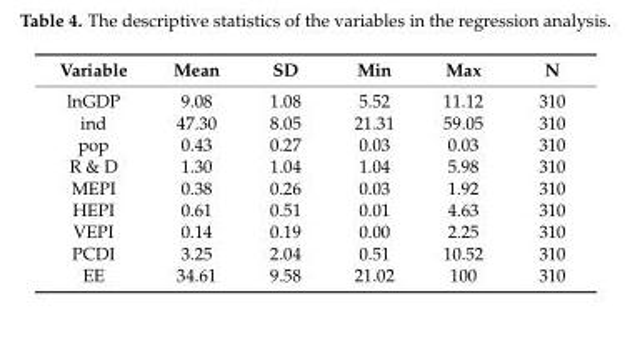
<table><thead><tr><td>Variable</td><td>Mean</td><td>SD</td><td>Min</td><td>Max</td><td>N</td></tr></thead><tbody><tr><td>lnGDP</td><td>9.08</td><td>1.08</td><td>5.52</td><td>11.12</td><td>310</td></tr><tr><td>ind</td><td>47.30</td><td>8.05</td><td>21.31</td><td>59.05</td><td>310</td></tr><tr><td>pop</td><td>0.43</td><td>0.27</td><td>0.03</td><td>0.03</td><td>310</td></tr><tr><td>R &amp; D</td><td>1.30</td><td>1.04</td><td>1.04</td><td>5.98</td><td>310</td></tr><tr><td>MEPI</td><td>0.38</td><td>0.26</td><td>0.03</td><td>1.92</td><td>310</td></tr><tr><td>HEPI</td><td>0.61</td><td>0.51</td><td>0.01</td><td>4.63</td><td>310</td></tr><tr><td>VEPI</td><td>0.14</td><td>0.19</td><td>0.00</td><td>2.25</td><td>310</td></tr><tr><td>PCDI</td><td>3.25</td><td>2.04</td><td>0.51</td><td>10.52</td><td>310</td></tr><tr><td>EE</td><td>34.61</td><td>9.58</td><td>21.02</td><td>100</td><td>310</td></tr></tbody></table>